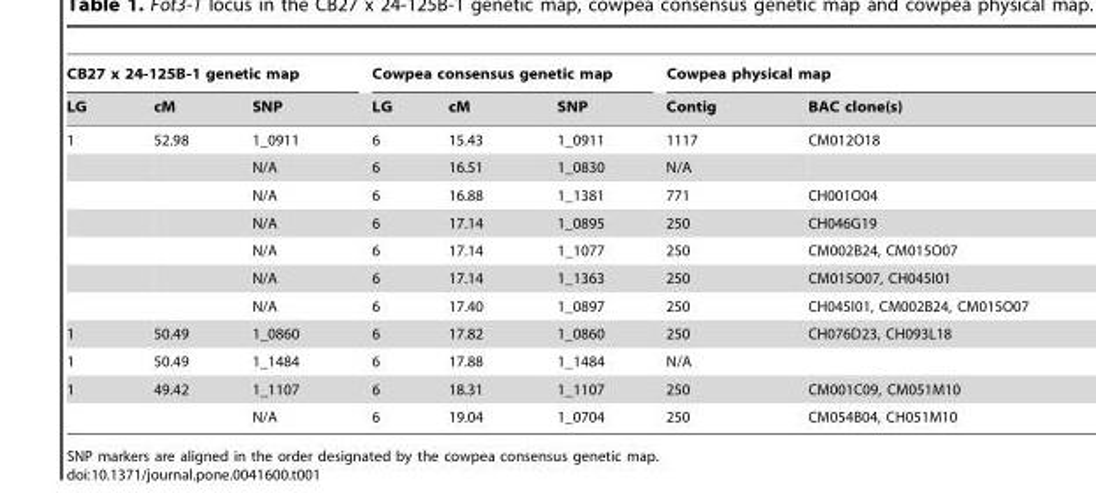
<table><thead><tr><td colspan="3">CB27 x 24-125B-1 genetic map</td><td colspan="3">Cowpea consensus genetic map</td><td colspan="2">Cowpea physical map</td></tr><tr><td>LG</td><td>cM</td><td>SNP</td><td>LG</td><td>cM</td><td>SNP</td><td>Contig</td><td>BAC clone(s)</td></tr></thead><tbody><tr><td rowspan="7">1</td><td>52.98</td><td>1_0911</td><td>6</td><td>15.43</td><td>1_0911</td><td>1117</td><td>CM012O18</td></tr><tr><td></td><td>N/A</td><td>6</td><td>16.51</td><td>1_0830</td><td>N/A</td><td></td></tr><tr><td></td><td>N/A</td><td>6</td><td>16.88</td><td>1_1381</td><td>771</td><td>CH001O04</td></tr><tr><td></td><td>N/A</td><td>6</td><td>17.14</td><td>1_0895</td><td>250</td><td>CH046G19</td></tr><tr><td></td><td>N/A</td><td>6</td><td>17.14</td><td>1_1077</td><td>250</td><td>CM002B24, CM015O07</td></tr><tr><td></td><td>N/A</td><td>6</td><td>17.14</td><td>1_1363</td><td>250</td><td>CM015O07, CH045I01</td></tr><tr><td></td><td>N/A</td><td>6</td><td>17.40</td><td>1_0897</td><td>250</td><td>CH045I01, CM002B24, CM015O07</td></tr><tr><td>1</td><td>50.49</td><td>1_0860</td><td>6</td><td>17.82</td><td>1_0860</td><td>250</td><td>CH076D23, CH093L18</td></tr><tr><td>1</td><td>50.49</td><td>1_1484</td><td>6</td><td>17.88</td><td>1_1484</td><td>N/A</td><td></td></tr><tr><td rowspan="2">1</td><td>49.42</td><td>1_1107</td><td>6</td><td>18.31</td><td>1_1107</td><td>250</td><td>CM001C09, CM051M10</td></tr><tr><td></td><td>N/A</td><td>6</td><td>19.04</td><td>1_0704</td><td>250</td><td>CM054B04, CH051M10</td></tr></tbody></table>